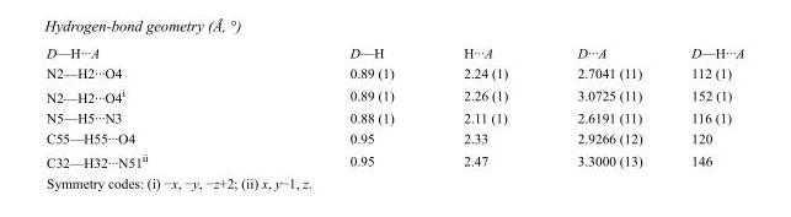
<table><tbody><tr><td>D—H···A</td><td>D—H</td><td>H···A</td><td>D···A</td><td>D—H···A</td></tr><tr><td>N2—H2···O4</td><td>0.89 (1)</td><td>2.24 (1)</td><td>2.7041 (11)</td><td>112 (1)</td></tr><tr><td>N2—H2···O4<sup>i</sup></td><td>0.89 (1)</td><td>2.26 (1)</td><td>3.0725 (11)</td><td>152 (1)</td></tr><tr><td>N5—H5···N3</td><td>0.88 (1)</td><td>2.11 (1)</td><td>2.6191 (11)</td><td>116 (1)</td></tr><tr><td>C55—H55···O4</td><td>0.95</td><td>2.33</td><td>2.9266 (12)</td><td>120</td></tr><tr><td>C32—H32···N51<sup>ii</sup></td><td>0.95</td><td>2.47</td><td>3.3000 (13)</td><td>146</td></tr></tbody></table>